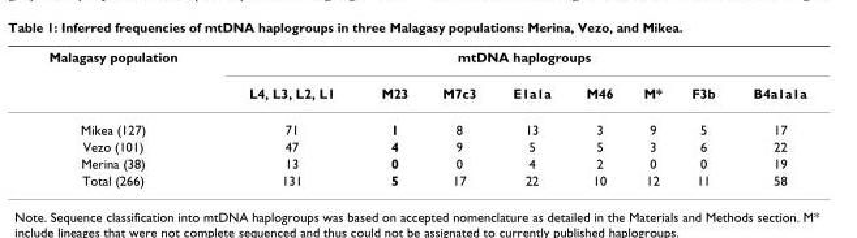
<table><thead><tr><td rowspan="2">Malagasy population</td><td colspan="8">mtDNA haplogroups</td></tr><tr><td>L4, L3, L2, L1</td><td>M23</td><td>M7c3</td><td>E1a1a</td><td>M46</td><td>M*</td><td>F3b</td><td>B4a1a1a</td></tr></thead><tbody><tr><td>Mikea (127)</td><td>71</td><td>1</td><td>8</td><td>13</td><td>3</td><td>9</td><td>5</td><td>17</td></tr><tr><td>Vezo (101)</td><td>47</td><td>4</td><td>9</td><td>5</td><td>5</td><td>3</td><td>6</td><td>22</td></tr><tr><td>Merina (38)</td><td>13</td><td>0</td><td>0</td><td>4</td><td>2</td><td>0</td><td>0</td><td>19</td></tr><tr><td>Total (266)</td><td>131</td><td>5</td><td>17</td><td>22</td><td>10</td><td>12</td><td>11</td><td>58</td></tr></tbody></table>